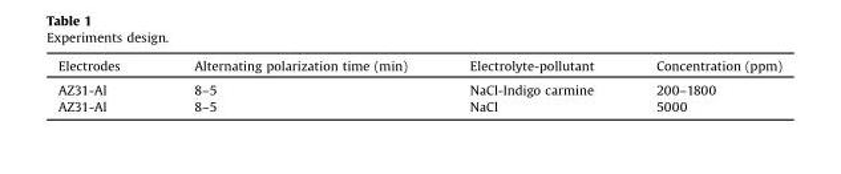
<table><thead><tr><td>Electrodes</td><td>Alternating polarization time (min)</td><td>Electrolyte-pollutant</td><td>Concentration (ppm)</td></tr></thead><tbody><tr><td>AZ31-Al</td><td>8–5</td><td>NaCl-Indigo carmine</td><td>200–1800</td></tr><tr><td>AZ31-Al</td><td>8–5</td><td>NaCl</td><td>5000</td></tr></tbody></table>